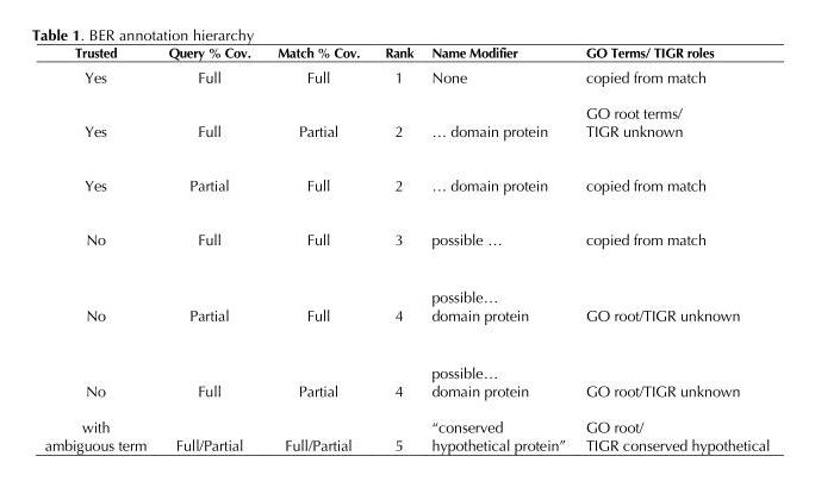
<table><thead><tr><td>Trusted</td><td>Query % Cov.</td><td>Match % Cov.</td><td>Rank</td><td>Name Modifier</td><td>GO Terms/ TIGR roles</td></tr></thead><tbody><tr><td>Yes</td><td>Full</td><td>Full</td><td>1</td><td>None</td><td>copied from match</td></tr><tr><td>Yes</td><td>Full</td><td>Partial</td><td>2</td><td>… domain protein</td><td>GO root terms/ TIGR unknown</td></tr><tr><td>Yes</td><td>Partial</td><td>Full</td><td>2</td><td>… domain protein</td><td>copied from match</td></tr><tr><td>No</td><td>Full</td><td>Full</td><td>3</td><td>possible …</td><td>copied from match</td></tr><tr><td>No</td><td>Partial</td><td>Full</td><td>4</td><td>possible… domain protein</td><td>GO root/TIGR unknown</td></tr><tr><td>No</td><td>Full</td><td>Partial</td><td>4</td><td>possible… domain protein</td><td>GO root/TIGR unknown</td></tr><tr><td>with ambiguous term</td><td>Full/Partial</td><td>Full/Partial</td><td>5</td><td>“conserved hypothetical protein”</td><td>GO root/ TIGR conserved hypothetical</td></tr></tbody></table>